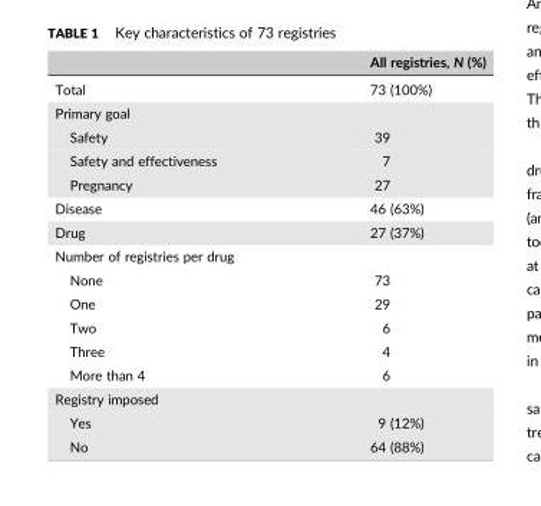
<table><thead><tr><td></td><td>All registries, N (%)</td></tr></thead><tbody><tr><td>Total</td><td>73 (100%)</td></tr><tr><td colspan="2">Primary goal</td></tr><tr><td>Safety</td><td>39</td></tr><tr><td>Safety and effectiveness</td><td>7</td></tr><tr><td>Pregnancy</td><td>27</td></tr><tr><td>Disease</td><td>46 (63%)</td></tr><tr><td>Drug</td><td>27 (37%)</td></tr><tr><td colspan="2">Number of registries per drug</td></tr><tr><td>None</td><td>73</td></tr><tr><td>One</td><td>29</td></tr><tr><td>Two</td><td>6</td></tr><tr><td>Three</td><td>4</td></tr><tr><td>More than 4</td><td>6</td></tr><tr><td colspan="2">Registry imposed</td></tr><tr><td>Yes</td><td>9 (12%)</td></tr><tr><td>No</td><td>64 (88%)</td></tr></tbody></table>